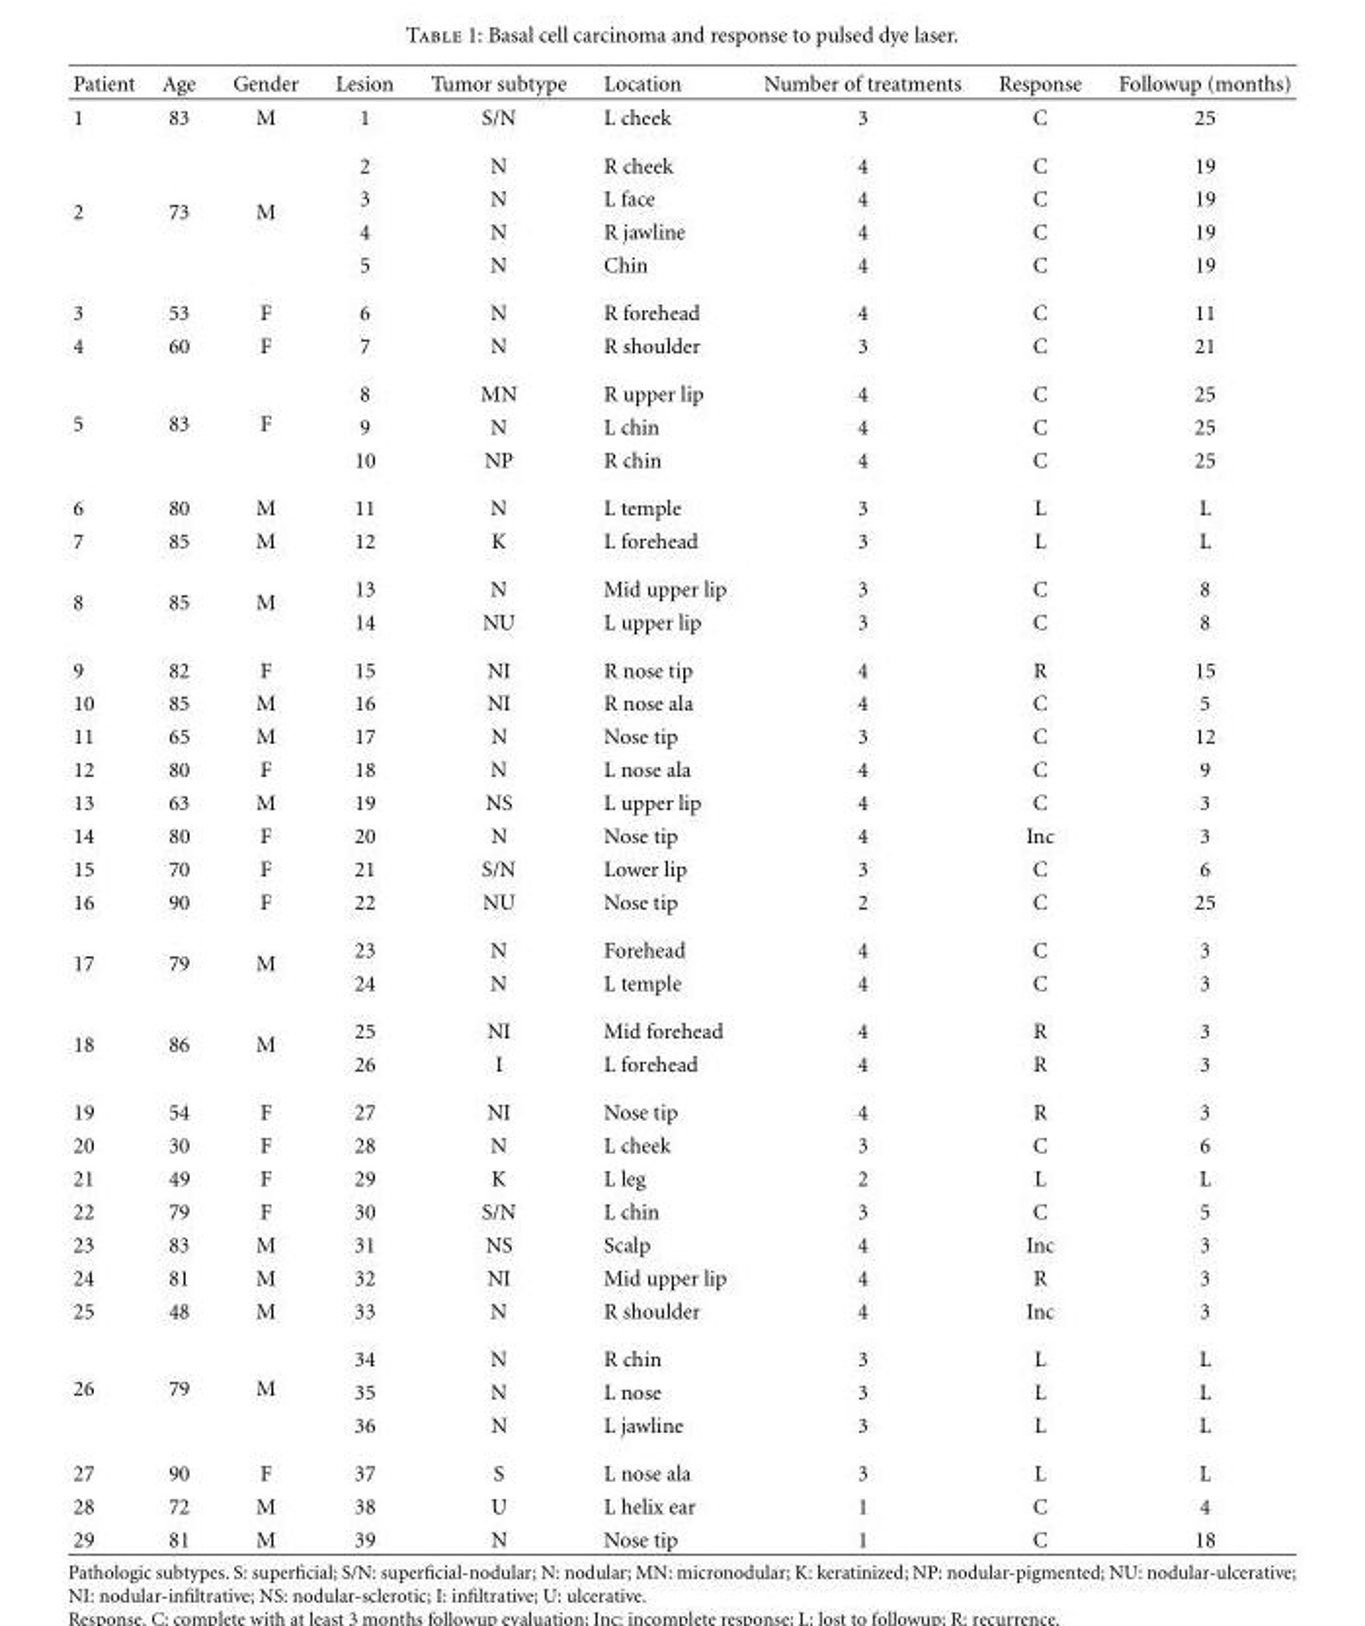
<table><thead><tr><td>Patient</td><td>Age</td><td>Gender</td><td>Lesion</td><td>Tumor subtype</td><td>Location</td><td>Number of treatments</td><td>Response</td><td>Followup (months)</td></tr></thead><tbody><tr><td>1</td><td>83</td><td>M</td><td>1</td><td>S/N</td><td>L cheek</td><td>3</td><td>C</td><td>25</td></tr><tr><td rowspan="4">2</td><td rowspan="4">73</td><td rowspan="4">M</td><td>2</td><td>N</td><td>R cheek</td><td>4</td><td>C</td><td>19</td></tr><tr><td>3</td><td>N</td><td>L face</td><td>4</td><td>C</td><td>19</td></tr><tr><td>4</td><td>N</td><td>R jawline</td><td>4</td><td>C</td><td>19</td></tr><tr><td>5</td><td>N</td><td>Chin</td><td>4</td><td>C</td><td>19</td></tr><tr><td>3</td><td>53</td><td>F</td><td>6</td><td>N</td><td>R forehead</td><td>4</td><td>C</td><td>11</td></tr><tr><td>4</td><td>60</td><td>F</td><td>7</td><td>N</td><td>R shoulder</td><td>3</td><td>C</td><td>21</td></tr><tr><td rowspan="3">5</td><td rowspan="3">83</td><td rowspan="3">F</td><td>8</td><td>MN</td><td>R upper lip</td><td>4</td><td>C</td><td>25</td></tr><tr><td>9</td><td>N</td><td>L chin</td><td>4</td><td>C</td><td>25</td></tr><tr><td>10</td><td>NP</td><td>R chin</td><td>4</td><td>C</td><td>25</td></tr><tr><td>6</td><td>80</td><td>M</td><td>11</td><td>N</td><td>L temple</td><td>3</td><td>L</td><td>L</td></tr><tr><td>7</td><td>85</td><td>M</td><td>12</td><td>K</td><td>L forehead</td><td>3</td><td>L</td><td>L</td></tr><tr><td rowspan="2">8</td><td rowspan="2">85</td><td rowspan="2">M</td><td>13</td><td>N</td><td>Mid upper lip</td><td>3</td><td>C</td><td>8</td></tr><tr><td>14</td><td>NU</td><td>L upper lip</td><td>3</td><td>C</td><td>8</td></tr><tr><td>9</td><td>82</td><td>F</td><td>15</td><td>NI</td><td>R nose tip</td><td>4</td><td>R</td><td>15</td></tr><tr><td>10</td><td>85</td><td>M</td><td>16</td><td>NI</td><td>R nose ala</td><td>4</td><td>C</td><td>5</td></tr><tr><td>11</td><td>65</td><td>M</td><td>17</td><td>N</td><td>Nose tip</td><td>3</td><td>C</td><td>12</td></tr><tr><td>12</td><td>80</td><td>F</td><td>18</td><td>N</td><td>L nose ala</td><td>4</td><td>C</td><td>9</td></tr><tr><td>13</td><td>63</td><td>M</td><td>19</td><td>NS</td><td>L upper lip</td><td>4</td><td>C</td><td>3</td></tr><tr><td>14</td><td>80</td><td>F</td><td>20</td><td>N</td><td>Nose tip</td><td>4</td><td>Inc</td><td>3</td></tr><tr><td>15</td><td>70</td><td>F</td><td>21</td><td>S/N</td><td>Lower lip</td><td>3</td><td>C</td><td>6</td></tr><tr><td>16</td><td>90</td><td>F</td><td>22</td><td>NU</td><td>Nose tip</td><td>2</td><td>C</td><td>25</td></tr><tr><td rowspan="2">17</td><td rowspan="2">79</td><td rowspan="2">M</td><td>23</td><td>N</td><td>Forehead</td><td>4</td><td>C</td><td>3</td></tr><tr><td>24</td><td>N</td><td>L temple</td><td>4</td><td>C</td><td>3</td></tr><tr><td rowspan="2">18</td><td rowspan="2">86</td><td rowspan="2">M</td><td>25</td><td>NI</td><td>Mid forehead</td><td>4</td><td>R</td><td>3</td></tr><tr><td>26</td><td>I</td><td>L forehead</td><td>4</td><td>R</td><td>3</td></tr><tr><td>19</td><td>54</td><td>F</td><td>27</td><td>NI</td><td>Nose tip</td><td>4</td><td>R</td><td>3</td></tr><tr><td>20</td><td>30</td><td>F</td><td>28</td><td>N</td><td>L cheek</td><td>3</td><td>C</td><td>6</td></tr><tr><td>21</td><td>49</td><td>F</td><td>29</td><td>K</td><td>L leg</td><td>2</td><td>L</td><td>L</td></tr><tr><td>22</td><td>79</td><td>F</td><td>30</td><td>S/N</td><td>L chin</td><td>3</td><td>C</td><td>5</td></tr><tr><td>23</td><td>83</td><td>M</td><td>31</td><td>NS</td><td>Scalp</td><td>4</td><td>Inc</td><td>3</td></tr><tr><td>24</td><td>81</td><td>M</td><td>32</td><td>NI</td><td>Mid upper lip</td><td>4</td><td>R</td><td>3</td></tr><tr><td>25</td><td>48</td><td>M</td><td>33</td><td>N</td><td>R shoulder</td><td>4</td><td>Inc</td><td>3</td></tr><tr><td rowspan="3">26</td><td rowspan="3">79</td><td rowspan="3">M</td><td>34</td><td>N</td><td>R chin</td><td>3</td><td>L</td><td>L</td></tr><tr><td>35</td><td>N</td><td>L nose</td><td>3</td><td>L</td><td>L</td></tr><tr><td>36</td><td>N</td><td>L jawline</td><td>3</td><td>L</td><td>L</td></tr><tr><td>27</td><td>90</td><td>F</td><td>37</td><td>S</td><td>L nose ala</td><td>3</td><td>L</td><td>L</td></tr><tr><td>28</td><td>72</td><td>M</td><td>38</td><td>U</td><td>L helix ear</td><td>1</td><td>C</td><td>4</td></tr><tr><td>29</td><td>81</td><td>M</td><td>39</td><td>N</td><td>Nose tip</td><td>1</td><td>C</td><td>18</td></tr></tbody></table>